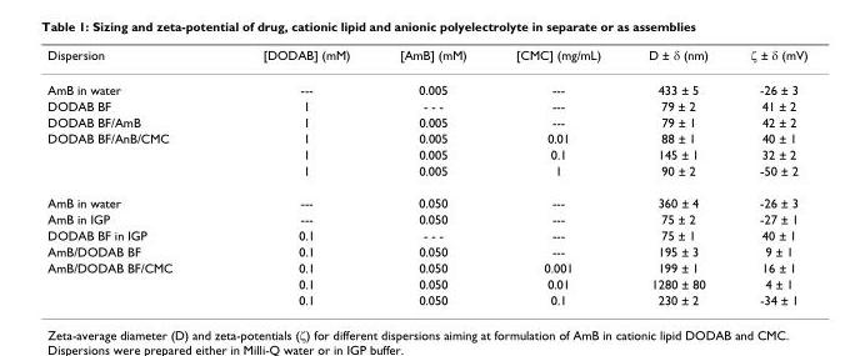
<table><thead><tr><td>Dispersion</td><td>[DODAB] (mM)</td><td>[AmB] (mM)</td><td>[CMC] (mg/mL)</td><td>D ± δ (nm)</td><td>ζ ± δ (mV)</td></tr></thead><tbody><tr><td>AmB in water</td><td>---</td><td>0.005</td><td>---</td><td>433 ± 5</td><td>-26 ± 3</td></tr><tr><td>DODAB BF</td><td>1</td><td>- - -</td><td>---</td><td>79 ± 2</td><td>41 ± 2</td></tr><tr><td>DODAB BF/AmB</td><td>1</td><td>0.005</td><td>---</td><td>79 ± 1</td><td>42 ± 2</td></tr><tr><td rowspan="3">DODAB BF/AnB/CMC</td><td>1</td><td>0.005</td><td>0.01</td><td>88 ± 1</td><td>40 ± 1</td></tr><tr><td>1</td><td>0.005</td><td>0.1</td><td>145 ± 1</td><td>32 ± 2</td></tr><tr><td>1</td><td>0.005</td><td>1</td><td>90 ± 2</td><td>-50 ± 2</td></tr><tr><td>AmB in water</td><td>---</td><td>0.050</td><td>---</td><td>360 ± 4</td><td>-26 ± 3</td></tr><tr><td>AmB in IGP</td><td>---</td><td>0.050</td><td>---</td><td>75 ± 2</td><td>-27 ± 1</td></tr><tr><td>DODAB BF in IGP</td><td>0.1</td><td>- - -</td><td>---</td><td>75 ± 1</td><td>40 ± 1</td></tr><tr><td>AmB/DODAB BF</td><td>0.1</td><td>0.050</td><td>---</td><td>195 ± 3</td><td>9 ± 1</td></tr><tr><td rowspan="3">AmB/DODAB BF/CMC</td><td>0.1</td><td>0.050</td><td>0.001</td><td>199 ± 1</td><td>16 ± 1</td></tr><tr><td>0.1</td><td>0.050</td><td>0.01</td><td>1280 ± 80</td><td>4 ± 1</td></tr><tr><td>0.1</td><td>0.050</td><td>0.1</td><td>230 ± 2</td><td>-34 ± 1</td></tr></tbody></table>